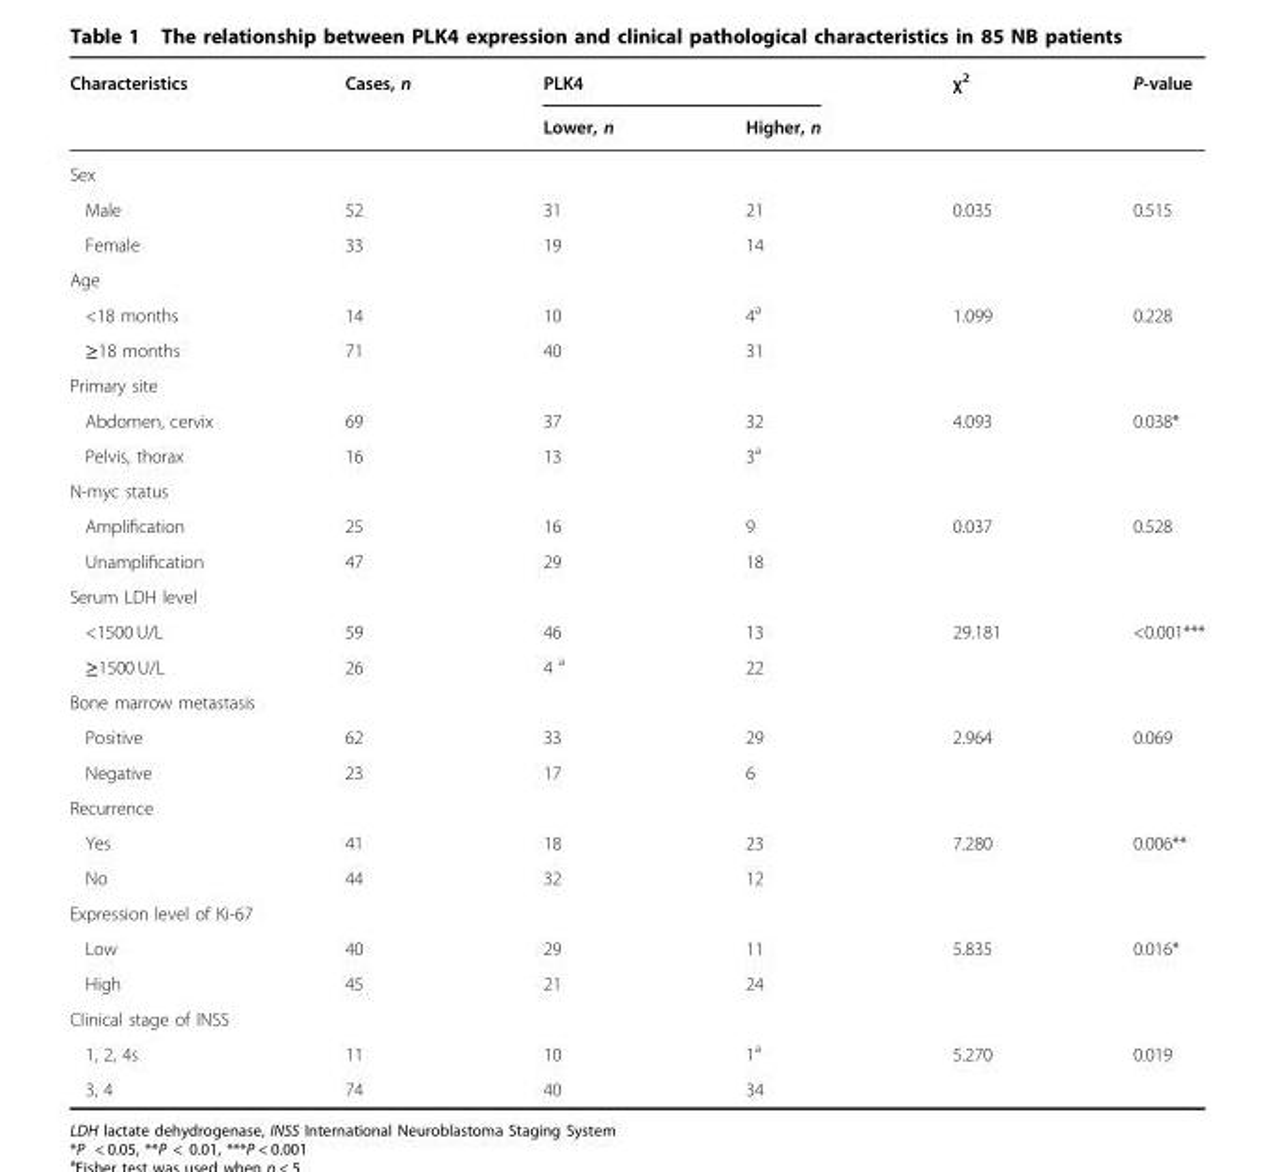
<table><thead><tr><td rowspan="2">Characteristics</td><td rowspan="2">Cases, n</td><td colspan="2">PLK4</td><td rowspan="2">χ<sup>2</sup></td><td rowspan="2">P-value</td></tr><tr><td>Lower, n</td><td>Higher, n</td></tr></thead><tbody><tr><td colspan="6">Sex</td></tr><tr><td>Male</td><td>52</td><td>31</td><td>21</td><td>0.035</td><td>0.515</td></tr><tr><td>Female</td><td>33</td><td>19</td><td>14</td><td></td><td></td></tr><tr><td colspan="6">Age</td></tr><tr><td>&lt;18 months</td><td>14</td><td>10</td><td>4<sup>a</sup></td><td>1.099</td><td>0.228</td></tr><tr><td>≥18 months</td><td>71</td><td>40</td><td>31</td><td></td><td></td></tr><tr><td colspan="6">Primary site</td></tr><tr><td>Abdomen, cervix</td><td>69</td><td>37</td><td>32</td><td>4.093</td><td>0.038*</td></tr><tr><td>Pelvis, thorax</td><td>16</td><td>13</td><td>3<sup>a</sup></td><td></td><td></td></tr><tr><td colspan="6">N-myc status</td></tr><tr><td>Amplification</td><td>25</td><td>16</td><td>9</td><td>0.037</td><td>0.528</td></tr><tr><td>Unamplification</td><td>47</td><td>29</td><td>18</td><td></td><td></td></tr><tr><td colspan="6">Serum LDH level</td></tr><tr><td>&lt;1500 U/L</td><td>59</td><td>46</td><td>13</td><td>29.181</td><td>&lt;0.001***</td></tr><tr><td>≥1500 U/L</td><td>26</td><td>4 <sup>a</sup></td><td>22</td><td></td><td></td></tr><tr><td colspan="6">Bone marrow metastasis</td></tr><tr><td>Positive</td><td>62</td><td>33</td><td>29</td><td>2.964</td><td>0.069</td></tr><tr><td>Negative</td><td>23</td><td>17</td><td>6</td><td></td><td></td></tr><tr><td colspan="6">Recurrence</td></tr><tr><td>Yes</td><td>41</td><td>18</td><td>23</td><td>7.280</td><td>0.006**</td></tr><tr><td>No</td><td>44</td><td>32</td><td>12</td><td></td><td></td></tr><tr><td colspan="6">Expression level of Ki-67</td></tr><tr><td>Low</td><td>40</td><td>29</td><td>11</td><td>5.835</td><td>0.016*</td></tr><tr><td>High</td><td>45</td><td>21</td><td>24</td><td></td><td></td></tr><tr><td colspan="6">Clinical stage of INSS</td></tr><tr><td>1, 2, 4s</td><td>11</td><td>10</td><td>1<sup>a</sup></td><td>5.270</td><td>0.019</td></tr><tr><td>3, 4</td><td>74</td><td>40</td><td>34</td><td></td><td></td></tr></tbody></table>